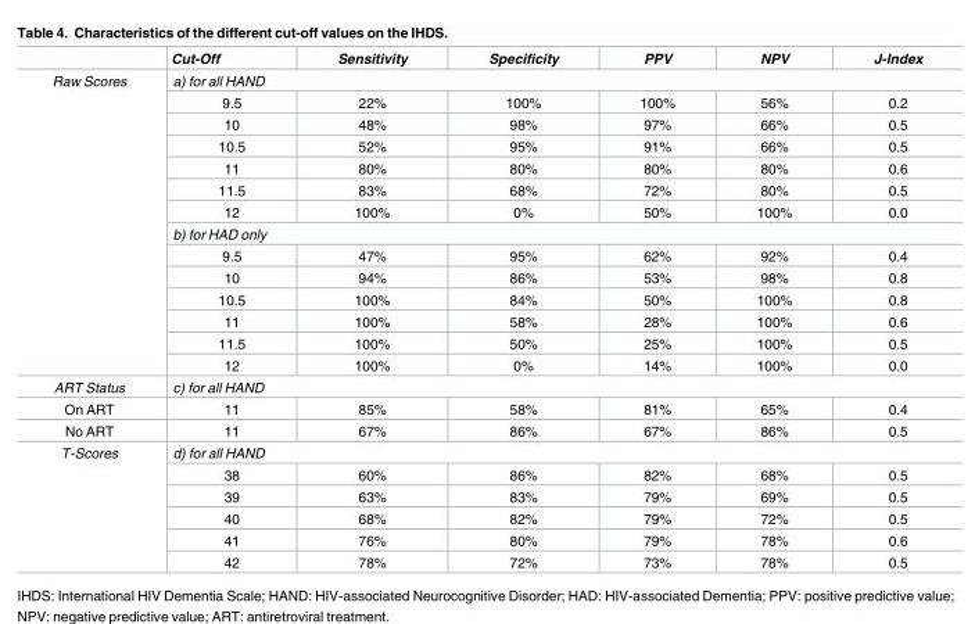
<table><thead><tr><td></td><td>Cut-Off</td><td>Sensitivity</td><td>Specificity</td><td>PPV</td><td>NPV</td><td>J-Index</td></tr></thead><tbody><tr><td rowspan="14">Raw Scores</td><td colspan="6">a) for all HAND</td></tr><tr><td>9.5</td><td>22%</td><td>100%</td><td>100%</td><td>56%</td><td>0.2</td></tr><tr><td>10</td><td>48%</td><td>98%</td><td>97%</td><td>66%</td><td>0.5</td></tr><tr><td>10.5</td><td>52%</td><td>95%</td><td>91%</td><td>66%</td><td>0.5</td></tr><tr><td>11</td><td>80%</td><td>80%</td><td>80%</td><td>80%</td><td>0.6</td></tr><tr><td>11.5</td><td>83%</td><td>68%</td><td>72%</td><td>80%</td><td>0.5</td></tr><tr><td>12</td><td>100%</td><td>0%</td><td>50%</td><td>100%</td><td>0.0</td></tr><tr><td colspan="6">b) for HAD only</td></tr><tr><td>9.5</td><td>47%</td><td>95%</td><td>62%</td><td>92%</td><td>0.4</td></tr><tr><td>10</td><td>94%</td><td>86%</td><td>53%</td><td>98%</td><td>0.8</td></tr><tr><td>10.5</td><td>100%</td><td>84%</td><td>50%</td><td>100%</td><td>0.8</td></tr><tr><td>11</td><td>100%</td><td>58%</td><td>28%</td><td>100%</td><td>0.6</td></tr><tr><td>11.5</td><td>100%</td><td>50%</td><td>25%</td><td>100%</td><td>0.5</td></tr><tr><td>12</td><td>100%</td><td>0%</td><td>14%</td><td>100%</td><td>0.0</td></tr><tr><td>ART Status</td><td colspan="6">c) for all HAND</td></tr><tr><td>On ART</td><td>11</td><td>85%</td><td>58%</td><td>81%</td><td>65%</td><td>0.4</td></tr><tr><td>No ART</td><td>11</td><td>67%</td><td>86%</td><td>67%</td><td>86%</td><td>0.5</td></tr><tr><td rowspan="6">T-Scores</td><td colspan="6">d) for all HAND</td></tr><tr><td>38</td><td>60%</td><td>86%</td><td>82%</td><td>68%</td><td>0.5</td></tr><tr><td>39</td><td>63%</td><td>83%</td><td>79%</td><td>69%</td><td>0.5</td></tr><tr><td>40</td><td>68%</td><td>82%</td><td>79%</td><td>72%</td><td>0.5</td></tr><tr><td>41</td><td>76%</td><td>80%</td><td>79%</td><td>78%</td><td>0.6</td></tr><tr><td>42</td><td>78%</td><td>72%</td><td>73%</td><td>78%</td><td>0.5</td></tr></tbody></table>